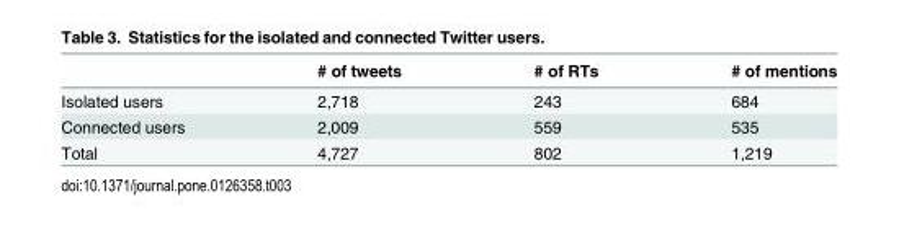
<table><thead><tr><td></td><td># of tweets</td><td># of RTs</td><td># of mentions</td></tr></thead><tbody><tr><td>Isolated users</td><td>2,718</td><td>243</td><td>684</td></tr><tr><td>Connected users</td><td>2,009</td><td>559</td><td>535</td></tr><tr><td>Total</td><td>4,727</td><td>802</td><td>1,219</td></tr></tbody></table>